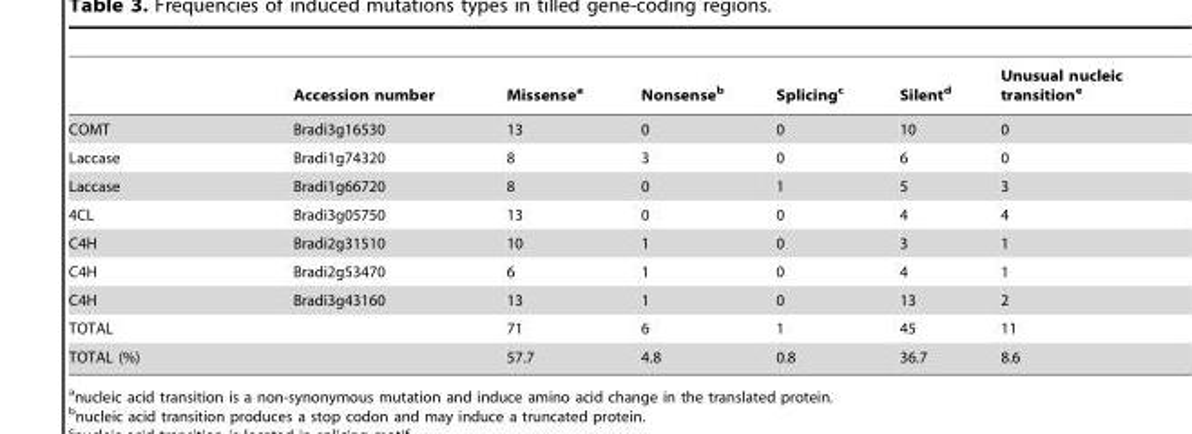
<table><thead><tr><td></td><td>Accession number</td><td>Missense<sup>a</sup></td><td>Nonsense<sup>b</sup></td><td>Splicing<sup>c</sup></td><td>Silent<sup>d</sup></td><td>Unusual nucleic transition<sup>e</sup></td></tr></thead><tbody><tr><td>COMT</td><td>Bradi3g16530</td><td>13</td><td>0</td><td>0</td><td>10</td><td>0</td></tr><tr><td>Laccase</td><td>Bradi1g74320</td><td>8</td><td>3</td><td>0</td><td>6</td><td>0</td></tr><tr><td>Laccase</td><td>Bradi1g66720</td><td>8</td><td>0</td><td>1</td><td>5</td><td>3</td></tr><tr><td>4CL</td><td>Bradi3g05750</td><td>13</td><td>0</td><td>0</td><td>4</td><td>4</td></tr><tr><td>C4H</td><td>Bradi2g31510</td><td>10</td><td>1</td><td>0</td><td>3</td><td>1</td></tr><tr><td>C4H</td><td>Bradi2g53470</td><td>6</td><td>1</td><td>0</td><td>4</td><td>1</td></tr><tr><td>C4H</td><td>Bradi3g43160</td><td>13</td><td>1</td><td>0</td><td>13</td><td>2</td></tr><tr><td>TOTAL</td><td></td><td>71</td><td>6</td><td>1</td><td>45</td><td>11</td></tr><tr><td>TOTAL (%)</td><td></td><td>57.7</td><td>4.8</td><td>0.8</td><td>36.7</td><td>8.6</td></tr></tbody></table>